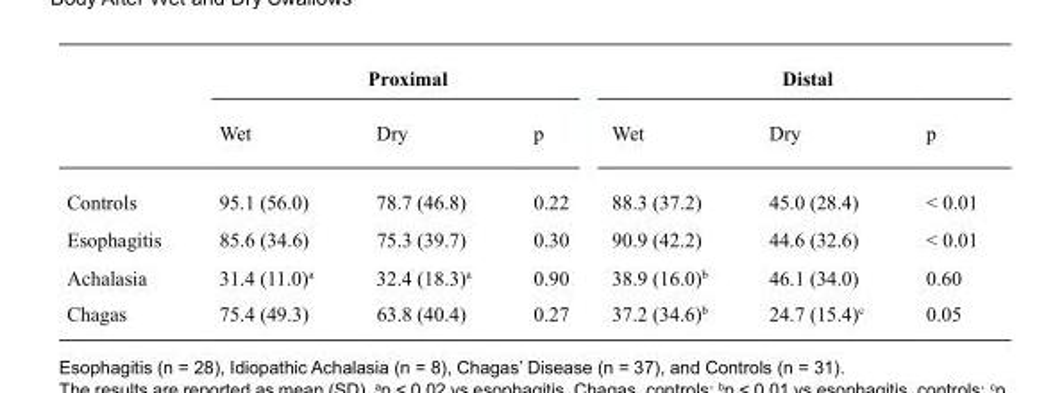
<table><thead><tr><td rowspan="2"></td><td colspan="3">Proximal</td><td colspan="3">Distal</td></tr><tr><td>Wet</td><td>Dry</td><td>p</td><td>Wet</td><td>Dry</td><td>p</td></tr></thead><tbody><tr><td>Controls</td><td>95.1 (56.0)</td><td>78.7 (46.8)</td><td>0.22</td><td>88.3 (37.2)</td><td>45.0 (28.4)</td><td>&lt; 0.01</td></tr><tr><td>Esophagitis</td><td>85.6 (34.6)</td><td>75.3 (39.7)</td><td>0.30</td><td>90.9 (42.2)</td><td>44.6 (32.6)</td><td>&lt; 0.01</td></tr><tr><td>Achalasia</td><td>31.4 (11.0)<sup>a</sup></td><td>32.4 (18.3)<sup>a</sup></td><td>0.90</td><td>38.9 (16.0)<sup>b</sup></td><td>46.1 (34.0)</td><td>0.60</td></tr><tr><td>Chagas</td><td>75.4 (49.3)</td><td>63.8 (40.4)</td><td>0.27</td><td>37.2 (34.6)<sup>b</sup></td><td>24.7 (15.4)<sup>c</sup></td><td>0.05</td></tr></tbody></table>